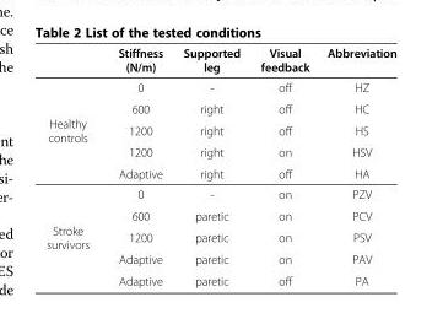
<table><thead><tr><td></td><td>Stiffness (N/m)</td><td>Supported leg</td><td>Visual feedback</td><td>Abbreviation</td></tr></thead><tbody><tr><td rowspan="5">Healthy controls</td><td>0</td><td>-</td><td>off</td><td>HZ</td></tr><tr><td>600</td><td>right</td><td>off</td><td>HC</td></tr><tr><td>1200</td><td>right</td><td>off</td><td>HS</td></tr><tr><td>1200</td><td>right</td><td>on</td><td>HSV</td></tr><tr><td>Adaptive</td><td>right</td><td>off</td><td>HA</td></tr><tr><td rowspan="5">Stroke survivors</td><td>0</td><td>-</td><td>on</td><td>PZV</td></tr><tr><td>600</td><td>paretic</td><td>on</td><td>PCV</td></tr><tr><td>1200</td><td>paretic</td><td>on</td><td>PSV</td></tr><tr><td>Adaptive</td><td>paretic</td><td>on</td><td>PAV</td></tr><tr><td>Adaptive</td><td>paretic</td><td>off</td><td>PA</td></tr></tbody></table>